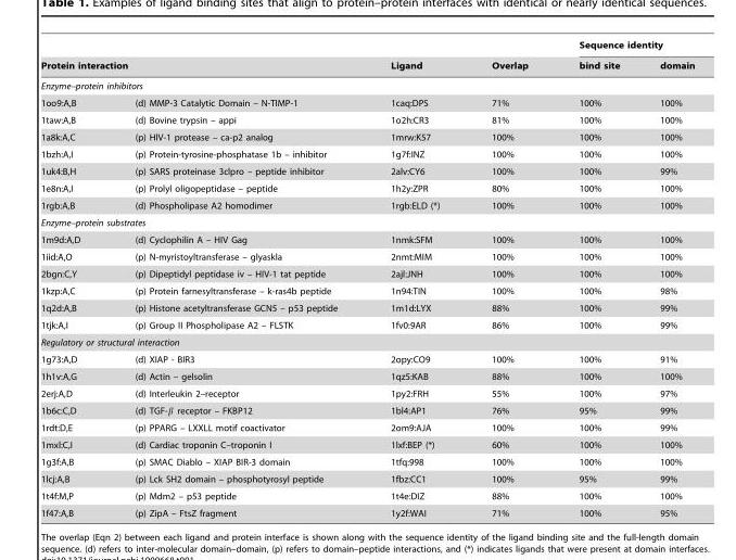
<table><thead><tr><td></td><td></td><td rowspan="2">Ligand</td><td rowspan="2">Overlap</td><td colspan="2">Sequence identity</td></tr><tr><td colspan="2">Protein interaction</td><td>bind site</td><td>domain</td></tr></thead><tbody><tr><td colspan="6">Enzyme–protein inhibitors</td></tr><tr><td>1oo9:A,B</td><td>(d) MMP-3 Catalytic Domain – N-TIMP-1</td><td>1caq:DPS</td><td>71%</td><td>100%</td><td>100%</td></tr><tr><td>1taw:A,B</td><td>(d) Bovine trypsin – appi</td><td>1o2h:CR3</td><td>81%</td><td>100%</td><td>100%</td></tr><tr><td>1a8k:A,C</td><td>(p) HIV-1 protease – ca-p2 analog</td><td>1mrw:K57</td><td>100%</td><td>100%</td><td>100%</td></tr><tr><td>1bzh:A,I</td><td>(p) Protein-tyrosine-phosphatase 1b – inhibitor</td><td>1g7f:INZ</td><td>100%</td><td>100%</td><td>100%</td></tr><tr><td>1uk4:B,H</td><td>(p) SARS proteinase 3clpro – peptide inhibitor</td><td>2alv:CY6</td><td>100%</td><td>100%</td><td>99%</td></tr><tr><td>1e8n:A,I</td><td>(p) Prolyl oligopeptidase – peptide</td><td>1h2y:ZPR</td><td>80%</td><td>100%</td><td>100%</td></tr><tr><td>1rgb:A,B</td><td>(d) Phospholipase A2 homodimer</td><td>1rgb:ELD (*)</td><td>100%</td><td>100%</td><td>100%</td></tr><tr><td colspan="6">Enzyme–protein substrates</td></tr><tr><td>1m9d:A,D</td><td>(d) Cyclophilin A – HIV Gag</td><td>1nmk:SFM</td><td>100%</td><td>100%</td><td>100%</td></tr><tr><td>1iid:A,O</td><td>(p) N-myristoyltransferase – glyaskla</td><td>2nmt:MIM</td><td>100%</td><td>100%</td><td>100%</td></tr><tr><td>2bgn:C,Y</td><td>(p) Dipeptidyl peptidase iv – HIV-1 tat peptide</td><td>2ajl:JNH</td><td>100%</td><td>100%</td><td>100%</td></tr><tr><td>1kzp:A,C</td><td>(p) Protein farnesyltransferase – k-ras4b peptide</td><td>1n94:TIN</td><td>100%</td><td>100%</td><td>98%</td></tr><tr><td>1q2d:A,B</td><td>(p) Histone acetyltransferase GCN5 – p53 peptide</td><td>1m1d:LYX</td><td>88%</td><td>100%</td><td>99%</td></tr><tr><td>1tjk:A,I</td><td>(p) Group II Phospholipase A2 – FLSTK</td><td>1fv0:9AR</td><td>86%</td><td>100%</td><td>99%</td></tr><tr><td colspan="6">Regulatory or structural interaction</td></tr><tr><td>1g73:A,D</td><td>(d) XIAP - BIR3</td><td>2opy:CO9</td><td>100%</td><td>100%</td><td>91%</td></tr><tr><td>1h1v:A,G</td><td>(d) Actin – gelsolin</td><td>1qz5:KAB</td><td>88%</td><td>100%</td><td>100%</td></tr><tr><td>2erj:A,D</td><td>(d) Interleukin 2–receptor</td><td>1py2:FRH</td><td>55%</td><td>100%</td><td>97%</td></tr><tr><td>1b6c:C,D</td><td>(d) TGF-b receptor – FKBP12</td><td>1bl4:AP1</td><td>76%</td><td>95%</td><td>99%</td></tr><tr><td>1rdt:D,E</td><td>(p) PPARG – LXXLL motif coactivator</td><td>2om9:AJA</td><td>100%</td><td>100%</td><td>99%</td></tr><tr><td>1mxl:C,I</td><td>(d) Cardiac troponin C–troponin I</td><td>1lxf:BEP (*)</td><td>60%</td><td>100%</td><td>100%</td></tr><tr><td>1g3f:A,B</td><td>(p) SMAC Diablo – XIAP BIR-3 domain</td><td>1tfq:998</td><td>100%</td><td>100%</td><td>100%</td></tr><tr><td>1lcj:A,B</td><td>(p) Lck SH2 domain – phosphotyrosyl peptide</td><td>1fbz:CC1</td><td>100%</td><td>95%</td><td>99%</td></tr><tr><td>1t4f:M,P</td><td>(p) Mdm2 – p53 peptide</td><td>1t4e:DIZ</td><td>88%</td><td>100%</td><td>100%</td></tr><tr><td>1f47:A,B</td><td>(p) ZipA – FtsZ fragment</td><td>1y2f:WAI</td><td>71%</td><td>100%</td><td>95%</td></tr></tbody></table>